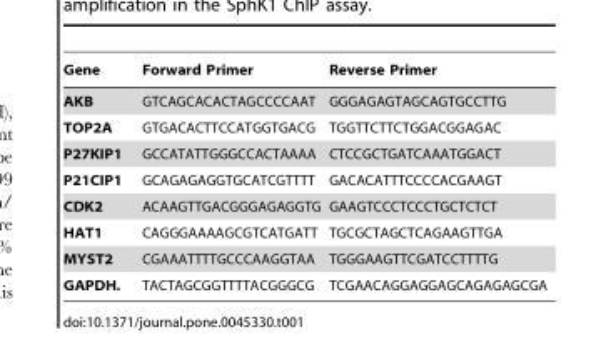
<table><thead><tr><td>Gene</td><td>Forward Primer</td><td>Reverse Primer</td></tr></thead><tbody><tr><td>AKB</td><td>GTCAGCACACTAGCCCCAAT</td><td>GGGAGAGTAGCAGTGCCTTG</td></tr><tr><td>TOP2A</td><td>GTGACACTTCCATGGTGACG</td><td>TGGTTCTTCTGGACGGAGAC</td></tr><tr><td>P27KIP1</td><td>GCCATATTGGGCCACTAAAA</td><td>CTCCGCTGATCAAATGGACT</td></tr><tr><td>P21CIP1</td><td>GCAGAGAGGTGCATCGTTTT</td><td>GACACATTTCCCCACGAAGT</td></tr><tr><td>CDK2</td><td>ACAAGTTGACGGGAGAGGTG</td><td>GAAGTCCCTCCCTGCTCTCT</td></tr><tr><td>HAT1</td><td>CAGGGAAAAGCGTCATGATT</td><td>TGCGCTAGCTCAGAAGTTGA</td></tr><tr><td>MYST2</td><td>CGAAATTTTGCCCAAGGTAA</td><td>TGGGAAGTTCGATCCTTTTG</td></tr><tr><td>GAPDH.</td><td>TACTAGCGGTTTTACGGGCG</td><td>TCGAACAGGAGGAGCAGAGAGCGA</td></tr></tbody></table>